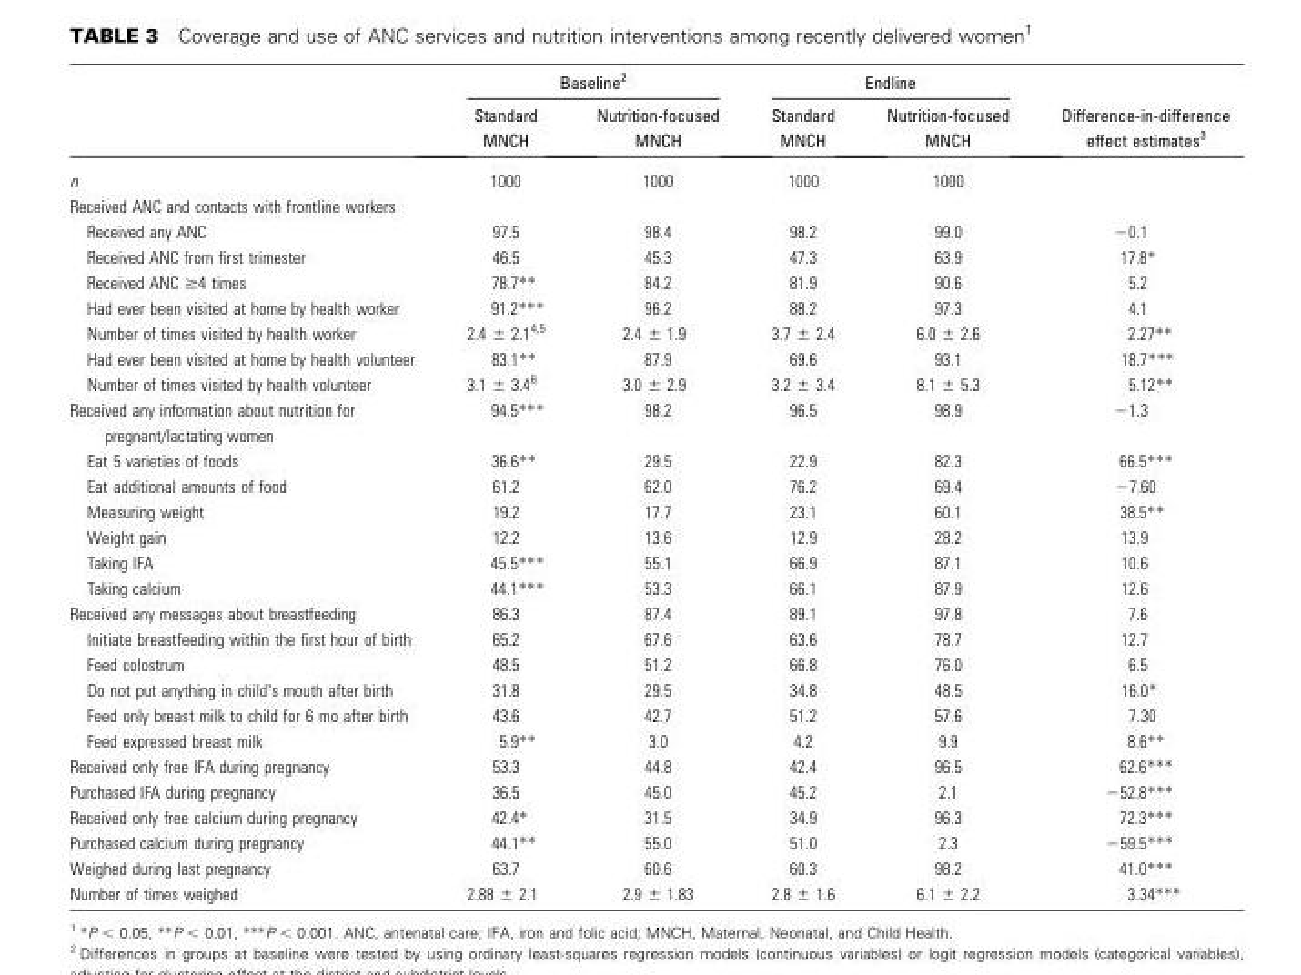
<table><thead><tr><td rowspan="2"></td><td colspan="2">Baseline<sup>2</sup></td><td colspan="2">Endline</td><td rowspan="2">Difference-in-difference effect estimates<sup>3</sup></td></tr><tr><td>Standard MNCH</td><td>Nutrition-focused MNCH</td><td>Standard MNCH</td><td>Nutrition-focused MNCH</td></tr></thead><tbody><tr><td>n</td><td>1000</td><td>1000</td><td>1000</td><td>1000</td><td></td></tr><tr><td colspan="6">Received ANC and contacts with frontline workers</td></tr><tr><td>Received any ANC</td><td>97.5</td><td>98.4</td><td>98.2</td><td>99.0</td><td>−0.1</td></tr><tr><td>Received ANC from first trimester</td><td>46.5</td><td>45.3</td><td>47.3</td><td>63.9</td><td>17.8*</td></tr><tr><td>Received ANC ≥4 times</td><td>78.7**</td><td>84.2</td><td>81.9</td><td>90.6</td><td>5.2</td></tr><tr><td>Had ever been visited at home by health worker</td><td>91.2***</td><td>96.2</td><td>88.2</td><td>97.3</td><td>4.1</td></tr><tr><td>Number of times visited by health worker</td><td>2.4 ± 2.1<sup>4,5</sup></td><td>2.4 ± 1.9</td><td>3.7 ± 2.4</td><td>6.0 ± 2.6</td><td>2.27**</td></tr><tr><td>Had ever been visited at home by health volunteer</td><td>83.1**</td><td>87.9</td><td>69.6</td><td>93.1</td><td>18.7***</td></tr><tr><td>Number of times visited by health volunteer</td><td>3.1 ± 3.4<sup>6</sup></td><td>3.0 ± 2.9</td><td>3.2 ± 3.4</td><td>8.1 ± 5.3</td><td>5.12**</td></tr><tr><td>Received any information about nutrition for pregnant/lactating women</td><td>94.5***</td><td>98.2</td><td>96.5</td><td>98.9</td><td>−1.3</td></tr><tr><td>Eat 5 varieties of foods</td><td>36.6**</td><td>29.5</td><td>22.9</td><td>82.3</td><td>66.5***</td></tr><tr><td>Eat additional amounts of food</td><td>61.2</td><td>62.0</td><td>76.2</td><td>69.4</td><td>−7.60</td></tr><tr><td>Measuring weight</td><td>19.2</td><td>17.7</td><td>23.1</td><td>60.1</td><td>38.5**</td></tr><tr><td>Weight gain</td><td>12.2</td><td>13.6</td><td>12.9</td><td>28.2</td><td>13.9</td></tr><tr><td>Taking IFA</td><td>45.5***</td><td>55.1</td><td>66.9</td><td>87.1</td><td>10.6</td></tr><tr><td>Taking calcium</td><td>44.1***</td><td>53.3</td><td>66.1</td><td>87.9</td><td>12.6</td></tr><tr><td>Received any messages about breastfeeding</td><td>86.3</td><td>87.4</td><td>89.1</td><td>97.8</td><td>7.6</td></tr><tr><td>Initiate breastfeeding within the first hour of birth</td><td>65.2</td><td>67.6</td><td>63.6</td><td>78.7</td><td>12.7</td></tr><tr><td>Feed colostrum</td><td>48.5</td><td>51.2</td><td>66.8</td><td>76.0</td><td>6.5</td></tr><tr><td>Do not put anything in child’s mouth after birth</td><td>31.8</td><td>29.5</td><td>34.8</td><td>48.5</td><td>16.0*</td></tr><tr><td>Feed only breast milk to child for 6 mo after birth</td><td>43.6</td><td>42.7</td><td>51.2</td><td>57.6</td><td>7.30</td></tr><tr><td>Feed expressed breast milk</td><td>5.9**</td><td>3.0</td><td>4.2</td><td>9.9</td><td>8.6**</td></tr><tr><td>Received only free IFA during pregnancy</td><td>53.3</td><td>44.8</td><td>42.4</td><td>96.5</td><td>62.6***</td></tr><tr><td>Purchased IFA during pregnancy</td><td>36.5</td><td>45.0</td><td>45.2</td><td>2.1</td><td>−52.8***</td></tr><tr><td>Received only free calcium during pregnancy</td><td>42.4*</td><td>31.5</td><td>34.9</td><td>96.3</td><td>72.3***</td></tr><tr><td>Purchased calcium during pregnancy</td><td>44.1**</td><td>55.0</td><td>51.0</td><td>2.3</td><td>−59.5***</td></tr><tr><td>Weighed during last pregnancy</td><td>63.7</td><td>60.6</td><td>60.3</td><td>98.2</td><td>41.0***</td></tr><tr><td>Number of times weighed</td><td>2.88 ± 2.1</td><td>2.9 ± 1.83</td><td>2.8 ± 1.6</td><td>6.1 ± 2.2</td><td>3.34***</td></tr></tbody></table>